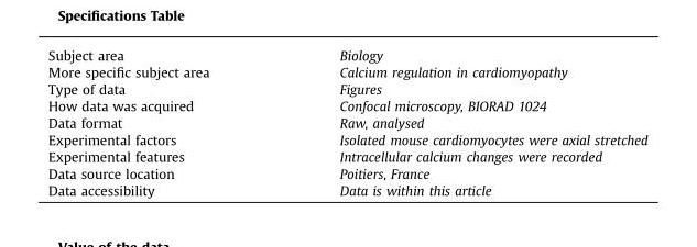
<table><tbody><tr><td>Subject area</td><td>Biology</td></tr><tr><td>More specific subject area</td><td>Calcium regulation in cardiomyopathy</td></tr><tr><td>Type of data</td><td>Figures</td></tr><tr><td>How data was acquired</td><td>Confocal microscopy, BIORAD 1024</td></tr><tr><td>Data format</td><td>Raw, analysed</td></tr><tr><td>Experimental factors</td><td>Isolated mouse cardiomyocytes were axial stretched</td></tr><tr><td>Experimental features</td><td>Intracellular calcium changes were recorded</td></tr><tr><td>Data source location</td><td>Poitiers, France</td></tr><tr><td>Data accessibility</td><td>Data is within this article</td></tr></tbody></table>